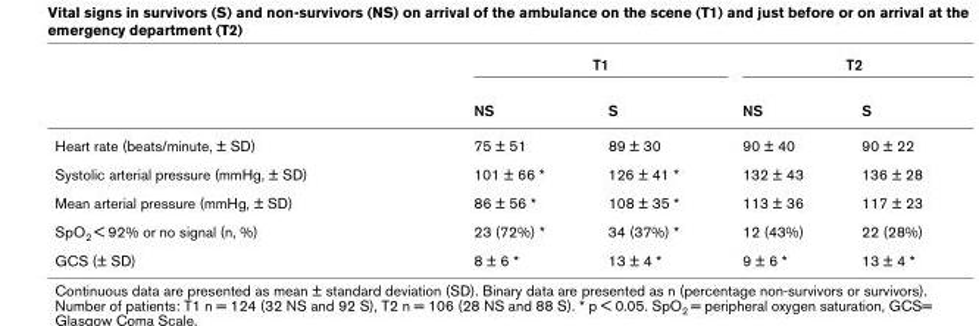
<table><thead><tr><td rowspan="2"></td><td colspan="2">T1</td><td colspan="2">T2</td></tr><tr><td>NS</td><td>S</td><td>NS</td><td>S</td></tr></thead><tbody><tr><td>Heart rate (beats/minute, ± SD)</td><td>75 ± 51</td><td>89 ± 30</td><td>90 ± 40</td><td>90 ± 22</td></tr><tr><td>Systolic arterial pressure (mmHg, ± SD)</td><td>101 ± 66 *</td><td>126 ± 41 *</td><td>132 ± 43</td><td>136 ± 28</td></tr><tr><td>Mean arterial pressure (mmHg, ± SD)</td><td>86 ± 56 *</td><td>108 ± 35 *</td><td>113 ± 36</td><td>117 ± 23</td></tr><tr><td>SpO<sub>2</sub> &lt; 92% or no signal (n, %)</td><td>23 (72%) *</td><td>34 (37%) *</td><td>12 (43%)</td><td>22 (28%)</td></tr><tr><td>GCS (± SD)</td><td>8 ± 6 *</td><td>13 ± 4 *</td><td>9 ± 6 *</td><td>13 ± 4 *</td></tr></tbody></table>